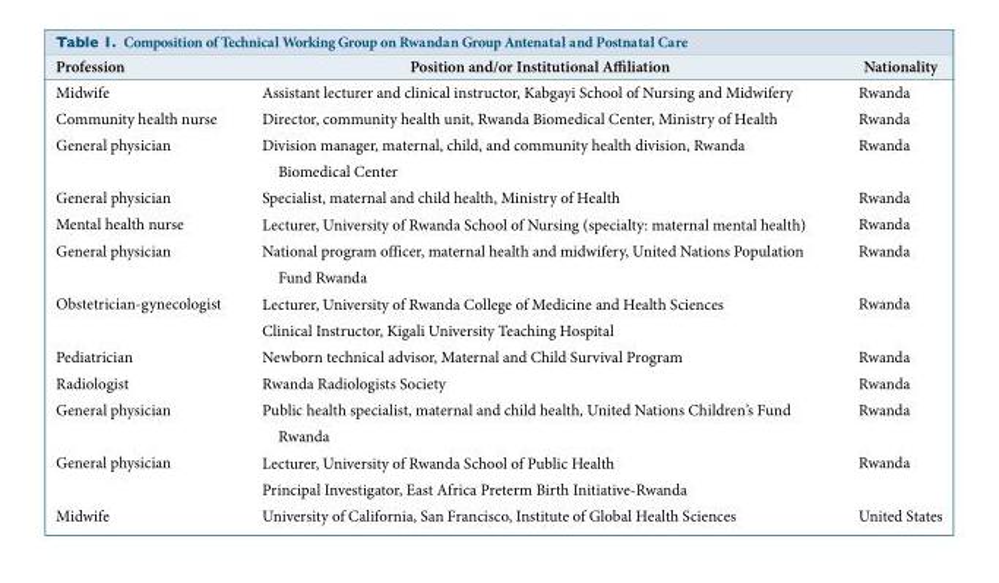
<table><thead><tr><td>Profession</td><td>Position and/or Institutional Affiliation</td><td>Nationality</td></tr></thead><tbody><tr><td>Midwife</td><td>Assistant lecturer and clinical instructor, Kabgayi School of Nursing and Midwifery</td><td>Rwanda</td></tr><tr><td>Community health nurse</td><td>Director, community health unit, Rwanda Biomedical Center, Ministry of Health</td><td>Rwanda</td></tr><tr><td>General physician</td><td>Division manager, maternal, child, and community health division, Rwanda Biomedical Center</td><td>Rwanda</td></tr><tr><td>General physician</td><td>Specialist, maternal and child health, Ministry of Health</td><td>Rwanda</td></tr><tr><td>Mental health nurse</td><td>Lecturer, University of Rwanda School of Nursing (specialty: maternal mental health)</td><td>Rwanda</td></tr><tr><td>General physician</td><td>National program officer, maternal health and midwifery, United Nations Population Fund Rwanda</td><td>Rwanda</td></tr><tr><td>Obstetrician-gynecologist</td><td>Lecturer, University of Rwanda College of Medicine and Health Sciences Clinical Instructor, Kigali University Teaching Hospital</td><td>Rwanda</td></tr><tr><td>Pediatrician</td><td>Newborn technical advisor, Maternal and Child Survival Program</td><td>Rwanda</td></tr><tr><td>Radiologist</td><td>Rwanda Radiologists Society</td><td>Rwanda</td></tr><tr><td>General physician</td><td>Public health specialist, maternal and child health, United Nations Children’s Fund Rwanda</td><td>Rwanda</td></tr><tr><td>General physician</td><td>Lecturer, University of Rwanda School of Public Health Principal Investigator, East Africa Preterm Birth Initiative-Rwanda</td><td>Rwanda</td></tr><tr><td>Midwife</td><td>University of California, San Francisco, Institute of Global Health Sciences</td><td>United States</td></tr></tbody></table>